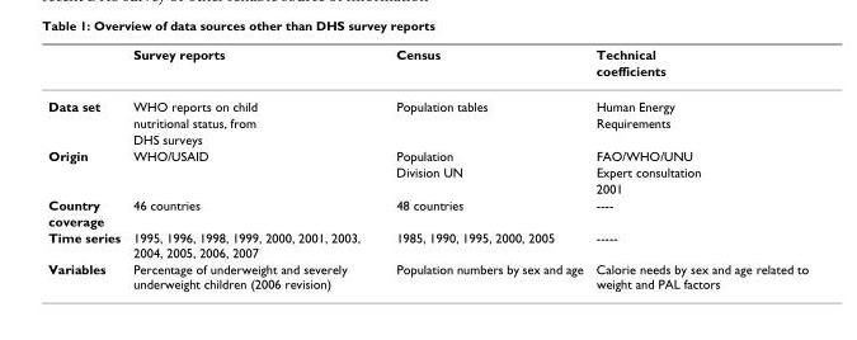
<table><thead><tr><td rowspan="2"></td><td rowspan="2">Survey reports</td><td rowspan="2">Census</td><td rowspan="2">Technical coefficients</td></tr><tr></tr></thead><tbody><tr><td rowspan="3">Data set</td><td>WHO reports on child</td><td>Population tables</td><td>Human Energy</td></tr><tr><td>nutritional status, from</td><td></td><td>Requirements</td></tr><tr><td>DHS surveys</td><td></td><td></td></tr><tr><td rowspan="3">Origin</td><td>WHO/USAID</td><td>Population</td><td>FAO/WHO/UNU</td></tr><tr><td></td><td>Division UN</td><td>Expert consultation</td></tr><tr><td></td><td></td><td>2001</td></tr><tr><td>Country</td><td>46 countries</td><td>48 countries</td><td>----</td></tr><tr><td colspan="4">coverage</td></tr><tr><td>Time series</td><td>1995, 1996, 1998, 1999, 2000, 2001, 2003, 2004, 2005, 2006, 2007</td><td>1985, 1990, 1995, 2000, 2005</td><td>-----</td></tr><tr><td>Variables</td><td>Percentage of underweight and severely underweight children (2006 revision)</td><td>Population numbers by sex and age</td><td>Calorie needs by sex and age related to weight and PAL factors</td></tr></tbody></table>